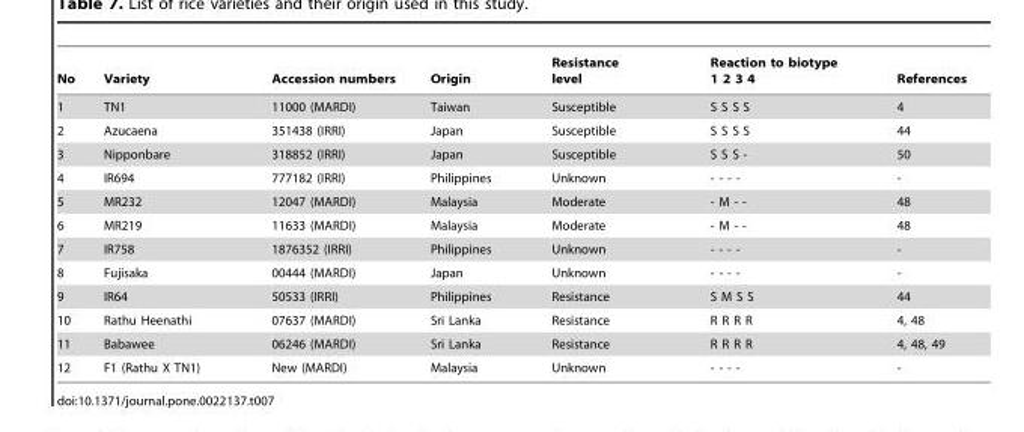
<table><thead><tr><td>No</td><td>Variety</td><td>Accession numbers</td><td>Origin</td><td>Resistance level</td><td>Reaction to biotype 1 2 3 4</td><td>References</td></tr></thead><tbody><tr><td>1</td><td>TN1</td><td>11000 (MARDI)</td><td>Taiwan</td><td>Susceptible</td><td>S S S S</td><td>4</td></tr><tr><td>2</td><td>Azucaena</td><td>351438 (IRRI)</td><td>Japan</td><td>Susceptible</td><td>S S S S</td><td>44</td></tr><tr><td>3</td><td>Nipponbare</td><td>318852 (IRRI)</td><td>Japan</td><td>Susceptible</td><td>S S S -</td><td>50</td></tr><tr><td>4</td><td>IR694</td><td>777182 (IRRI)</td><td>Philippines</td><td>Unknown</td><td>- - - -</td><td>-</td></tr><tr><td>5</td><td>MR232</td><td>12047 (MARDI)</td><td>Malaysia</td><td>Moderate</td><td>- M - -</td><td>48</td></tr><tr><td>6</td><td>MR219</td><td>11633 (MARDI)</td><td>Malaysia</td><td>Moderate</td><td>- M - -</td><td>48</td></tr><tr><td>7</td><td>IR758</td><td>1876352 (IRRI)</td><td>Philippines</td><td>Unknown</td><td>- - - -</td><td>-</td></tr><tr><td>8</td><td>Fujisaka</td><td>00444 (MARDI)</td><td>Japan</td><td>Unknown</td><td>- - - -</td><td>-</td></tr><tr><td>9</td><td>IR64</td><td>50533 (IRRI)</td><td>Philippines</td><td>Resistance</td><td>S M S S</td><td>44</td></tr><tr><td>10</td><td>Rathu Heenathi</td><td>07637 (MARDI)</td><td>Sri Lanka</td><td>Resistance</td><td>R R R R</td><td>4, 48</td></tr><tr><td>11</td><td>Babawee</td><td>06246 (MARDI)</td><td>Sri Lanka</td><td>Resistance</td><td>R R R R</td><td>4, 48, 49</td></tr><tr><td>12</td><td>F1 (Rathu X TN1)</td><td>New (MARDI)</td><td>Malaysia</td><td>Unknown</td><td>- - - -</td><td>-</td></tr></tbody></table>